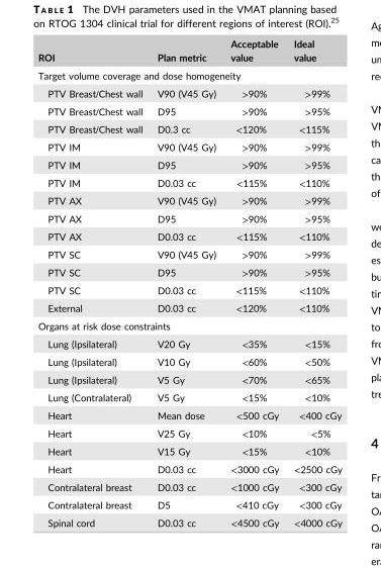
<table><thead><tr><td>ROI</td><td>Plan metric</td><td>Acceptable value</td><td>Ideal value</td></tr></thead><tbody><tr><td colspan="4">Target volume coverage and dose homogeneity</td></tr><tr><td>PTV Breast/Chest wall</td><td>V90 (V45 Gy)</td><td>&gt;90%</td><td>&gt;99%</td></tr><tr><td>PTV Breast/Chest wall</td><td>D95</td><td>&gt;90%</td><td>&gt;95%</td></tr><tr><td>PTV Breast/Chest wall</td><td>D0.3 cc</td><td>&lt;120%</td><td>&lt;115%</td></tr><tr><td>PTV IM</td><td>V90 (V45 Gy)</td><td>&gt;90%</td><td>&gt;99%</td></tr><tr><td>PTV IM</td><td>D95</td><td>&gt;90%</td><td>&gt;95%</td></tr><tr><td>PTV IM</td><td>D0.03 cc</td><td>&lt;115%</td><td>&lt;110%</td></tr><tr><td>PTV AX</td><td>V90 (V45 Gy)</td><td>&gt;90%</td><td>&gt;99%</td></tr><tr><td>PTV AX</td><td>D95</td><td>&gt;90%</td><td>&gt;95%</td></tr><tr><td>PTV AX</td><td>D0.03 cc</td><td>&lt;115%</td><td>&lt;110%</td></tr><tr><td>PTV SC</td><td>V90 (V45 Gy)</td><td>&gt;90%</td><td>&gt;99%</td></tr><tr><td>PTV SC</td><td>D95</td><td>&gt;90%</td><td>&gt;95%</td></tr><tr><td>PTV SC</td><td>D0.03 cc</td><td>&lt;115%</td><td>&lt;110%</td></tr><tr><td>External</td><td>D0.03 cc</td><td>&lt;120%</td><td>&lt;110%</td></tr><tr><td colspan="4">Organs at risk dose constraints</td></tr><tr><td>Lung (Ipsilateral)</td><td>V20 Gy</td><td>&lt;35%</td><td>&lt;15%</td></tr><tr><td>Lung (Ipsilateral)</td><td>V10 Gy</td><td>&lt;60%</td><td>&lt;50%</td></tr><tr><td>Lung (Ipsilateral)</td><td>V5 Gy</td><td>&lt;70%</td><td>&lt;65%</td></tr><tr><td>Lung (Contralateral)</td><td>V5 Gy</td><td>&lt;15%</td><td>&lt;10%</td></tr><tr><td>Heart</td><td>Mean dose</td><td>&lt;500 cGy</td><td>&lt;400 cGy</td></tr><tr><td>Heart</td><td>V25 Gy</td><td>&lt;10%</td><td>&lt;5%</td></tr><tr><td>Heart</td><td>V15 Gy</td><td>&lt;15%</td><td>&lt;10%</td></tr><tr><td>Heart</td><td>D0.03 cc</td><td>&lt;3000 cGy</td><td>&lt;2500 cGy</td></tr><tr><td>Contralateral breast</td><td>D0.03 cc</td><td>&lt;1000 cGy</td><td>&lt;300 cGy</td></tr><tr><td>Contralateral breast</td><td>D5</td><td>&lt;410 cGy</td><td>&lt;300 cGy</td></tr><tr><td>Spinal cord</td><td>D0.03 cc</td><td>&lt;4500 cGy</td><td>&lt;4000 cGy</td></tr></tbody></table>